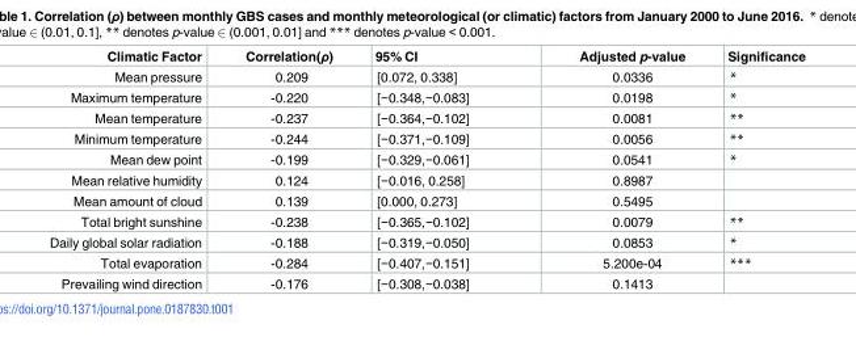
<table><thead><tr><td>Climatic Factor</td><td>Correlation(ρ)</td><td>95% CI</td><td>Adjusted p-value</td><td>Significance</td></tr></thead><tbody><tr><td>Mean pressure</td><td>0.209</td><td>[0.072, 0.338]</td><td>0.0336</td><td>*</td></tr><tr><td>Maximum temperature</td><td>-0.220</td><td>[−0.348,−0.083]</td><td>0.0198</td><td>*</td></tr><tr><td>Mean temperature</td><td>-0.237</td><td>[−0.364,−0.102]</td><td>0.0081</td><td>**</td></tr><tr><td>Minimum temperature</td><td>-0.244</td><td>[−0.371,−0.109]</td><td>0.0056</td><td>**</td></tr><tr><td>Mean dew point</td><td>-0.199</td><td>[−0.329,−0.061]</td><td>0.0541</td><td>*</td></tr><tr><td>Mean relative humidity</td><td>0.124</td><td>[−0.016, 0.258]</td><td>0.8987</td><td></td></tr><tr><td>Mean amount of cloud</td><td>0.139</td><td>[0.000, 0.273]</td><td>0.5495</td><td></td></tr><tr><td>Total bright sunshine</td><td>-0.238</td><td>[−0.365,−0.102]</td><td>0.0079</td><td>**</td></tr><tr><td>Daily global solar radiation</td><td>-0.188</td><td>[−0.319,−0.050]</td><td>0.0853</td><td>*</td></tr><tr><td>Total evaporation</td><td>-0.284</td><td>[−0.407,−0.151]</td><td>5.200e-04</td><td>***</td></tr><tr><td>Prevailing wind direction</td><td>-0.176</td><td>[−0.308,−0.038]</td><td>0.1413</td><td></td></tr></tbody></table>